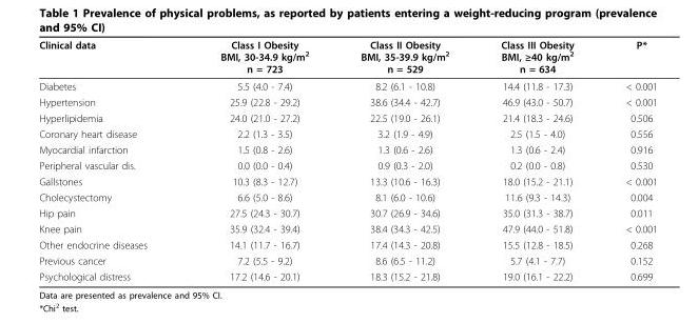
<table><thead><tr><td>Clinical data</td><td>Class I Obesity BMI, 30-34.9 kg/m<sup>2</sup> n = 723</td><td>Class II Obesity BMI, 35-39.9 kg/m<sup>2</sup> n = 529</td><td>Class III Obesity BMI, ≥40 kg/m<sup>2</sup> n = 634</td><td>P*</td></tr></thead><tbody><tr><td>Diabetes</td><td>5.5 (4.0 - 7.4)</td><td>8.2 (6.1 - 10.8)</td><td>14.4 (11.8 - 17.3)</td><td>&lt; 0.001</td></tr><tr><td>Hypertension</td><td>25.9 (22.8 - 29.2)</td><td>38.6 (34.4 - 42.7)</td><td>46.9 (43.0 - 50.7)</td><td>&lt; 0.001</td></tr><tr><td>Hyperlipidemia</td><td>24.0 (21.0 - 27.2)</td><td>22.5 (19.0 - 26.1)</td><td>21.4 (18.3 - 24.6)</td><td>0.506</td></tr><tr><td>Coronary heart disease</td><td>2.2 (1.3 - 3.5)</td><td>3.2 (1.9 - 4.9)</td><td>2.5 (1.5 - 4.0)</td><td>0.556</td></tr><tr><td>Myocardial infarction</td><td>1.5 (0.8 - 2.6)</td><td>1.3 (0.6 - 2.6)</td><td>1.3 (0.6 - 2.4)</td><td>0.916</td></tr><tr><td>Peripheral vascular dis.</td><td>0.0 (0.0 - 0.4)</td><td>0.9 (0.3 - 2.0)</td><td>0.2 (0.0 - 0.8)</td><td>0.530</td></tr><tr><td>Gallstones</td><td>10.3 (8.3 - 12.7)</td><td>13.3 (10.6 - 16.3)</td><td>18.0 (15.2 - 21.1)</td><td>&lt; 0.001</td></tr><tr><td>Cholecystectomy</td><td>6.6 (5.0 - 8.6)</td><td>8.1 (6.0 - 10.6)</td><td>11.6 (9.3 - 14.3)</td><td>0.004</td></tr><tr><td>Hip pain</td><td>27.5 (24.3 - 30.7)</td><td>30.7 (26.9 - 34.6)</td><td>35.0 (31.3 - 38.7)</td><td>0.011</td></tr><tr><td>Knee pain</td><td>35.9 (32.4 - 39.4)</td><td>38.4 (34.3 - 42.5)</td><td>47.9 (44.0 - 51.8)</td><td>&lt; 0.001</td></tr><tr><td>Other endocrine diseases</td><td>14.1 (11.7 - 16.7)</td><td>17.4 (14.3 - 20.8)</td><td>15.5 (12.8 - 18.5)</td><td>0.268</td></tr><tr><td>Previous cancer</td><td>7.2 (5.5 - 9.2)</td><td>8.6 (6.5 - 11.2)</td><td>5.7 (4.1 - 7.7)</td><td>0.152</td></tr><tr><td>Psychological distress</td><td>17.2 (14.6 - 20.1)</td><td>18.3 (15.2 - 21.8)</td><td>19.0 (16.1 - 22.2)</td><td>0.699</td></tr></tbody></table>